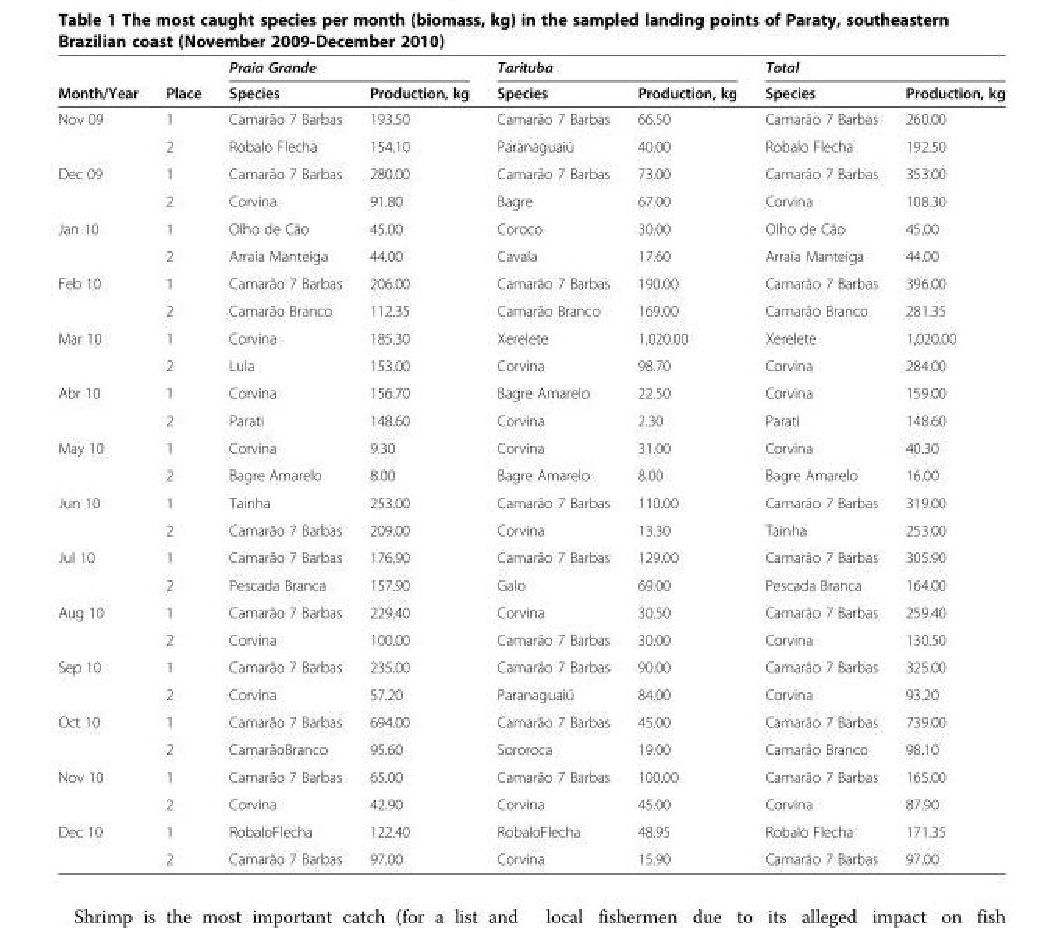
<table><thead><tr><td rowspan="2">Month/Year</td><td rowspan="2">Place</td><td colspan="2">Praia Grande</td><td colspan="2">Tarituba</td><td colspan="2">Total</td></tr><tr><td>Species</td><td>Production, kg</td><td>Species</td><td>Production, kg</td><td>Species</td><td>Production, kg</td></tr></thead><tbody><tr><td rowspan="2">Nov 09</td><td>1</td><td>Camarão 7 Barbas</td><td>193.50</td><td>Camarão 7 Barbas</td><td>66.50</td><td>Camarão 7 Barbas</td><td>260.00</td></tr><tr><td>2</td><td>Robalo Flecha</td><td>154.10</td><td>Paranaguaiú</td><td>40.00</td><td>Robalo Flecha</td><td>192.50</td></tr><tr><td rowspan="2">Dec 09</td><td>1</td><td>Camarão 7 Barbas</td><td>280.00</td><td>Camarão 7 Barbas</td><td>73.00</td><td>Camarão 7 Barbas</td><td>353.00</td></tr><tr><td>2</td><td>Corvina</td><td>91.80</td><td>Bagre</td><td>67.00</td><td>Corvina</td><td>108.30</td></tr><tr><td rowspan="2">Jan 10</td><td>1</td><td>Olho de Cão</td><td>45.00</td><td>Coroco</td><td>30.00</td><td>Olho de Cão</td><td>45.00</td></tr><tr><td>2</td><td>Arraia Manteiga</td><td>44.00</td><td>Cavala</td><td>17.60</td><td>Arraia Manteiga</td><td>44.00</td></tr><tr><td rowspan="2">Feb 10</td><td>1</td><td>Camarão 7 Barbas</td><td>206.00</td><td>Camarão 7 Barbas</td><td>190.00</td><td>Camarão 7 Barbas</td><td>396.00</td></tr><tr><td>2</td><td>Camarão Branco</td><td>112.35</td><td>Camarão Branco</td><td>169.00</td><td>Camarão Branco</td><td>281.35</td></tr><tr><td rowspan="2">Mar 10</td><td>1</td><td>Corvina</td><td>185.30</td><td>Xerelete</td><td>1,020.00</td><td>Xerelete</td><td>1,020.00</td></tr><tr><td>2</td><td>Lula</td><td>153.00</td><td>Corvina</td><td>98.70</td><td>Corvina</td><td>284.00</td></tr><tr><td rowspan="2">Abr 10</td><td>1</td><td>Corvina</td><td>156.70</td><td>Bagre Amarelo</td><td>22.50</td><td>Corvina</td><td>159.00</td></tr><tr><td>2</td><td>Parati</td><td>148.60</td><td>Corvina</td><td>2.30</td><td>Parati</td><td>148.60</td></tr><tr><td rowspan="2">May 10</td><td>1</td><td>Corvina</td><td>9.30</td><td>Corvina</td><td>31.00</td><td>Corvina</td><td>40.30</td></tr><tr><td>2</td><td>Bagre Amarelo</td><td>8.00</td><td>Bagre Amarelo</td><td>8.00</td><td>Bagre Amarelo</td><td>16.00</td></tr><tr><td rowspan="2">Jun 10</td><td>1</td><td>Tainha</td><td>253.00</td><td>Camarão 7 Barbas</td><td>110.00</td><td>Camarão 7 Barbas</td><td>319.00</td></tr><tr><td>2</td><td>Camarão 7 Barbas</td><td>209.00</td><td>Corvina</td><td>13.30</td><td>Tainha</td><td>253.00</td></tr><tr><td rowspan="2">Jul 10</td><td>1</td><td>Camarão 7 Barbas</td><td>176.90</td><td>Camarão 7 Barbas</td><td>129.00</td><td>Camarão 7 Barbas</td><td>305.90</td></tr><tr><td>2</td><td>Pescada Branca</td><td>157.90</td><td>Galo</td><td>69.00</td><td>Pescada Branca</td><td>164.00</td></tr><tr><td rowspan="2">Aug 10</td><td>1</td><td>Camarão 7 Barbas</td><td>229.40</td><td>Corvina</td><td>30.50</td><td>Camarão 7 Barbas</td><td>259.40</td></tr><tr><td>2</td><td>Corvina</td><td>100.00</td><td>Camarão 7 Barbas</td><td>30.00</td><td>Corvina</td><td>130.50</td></tr><tr><td rowspan="2">Sep 10</td><td>1</td><td>Camarão 7 Barbas</td><td>235.00</td><td>Camarão 7 Barbas</td><td>90.00</td><td>Camarão 7 Barbas</td><td>325.00</td></tr><tr><td>2</td><td>Corvina</td><td>57.20</td><td>Paranaguaiú</td><td>84.00</td><td>Corvina</td><td>93.20</td></tr><tr><td rowspan="2">Oct 10</td><td>1</td><td>Camarão 7 Barbas</td><td>694.00</td><td>Camarão 7 Barbas</td><td>45.00</td><td>Camarão 7 Barbas</td><td>739.00</td></tr><tr><td>2</td><td>CamarãoBranco</td><td>95.60</td><td>Sororoca</td><td>19.00</td><td>Camarão Branco</td><td>98.10</td></tr><tr><td rowspan="2">Nov 10</td><td>1</td><td>Camarão 7 Barbas</td><td>65.00</td><td>Camarão 7 Barbas</td><td>100.00</td><td>Camarão 7 Barbas</td><td>165.00</td></tr><tr><td>2</td><td>Corvina</td><td>42.90</td><td>Corvina</td><td>45.00</td><td>Corvina</td><td>87.90</td></tr><tr><td rowspan="2">Dec 10</td><td>1</td><td>RobaloFlecha</td><td>122.40</td><td>RobaloFlecha</td><td>48.95</td><td>Robalo Flecha</td><td>171.35</td></tr><tr><td>2</td><td>Camarão 7 Barbas</td><td>97.00</td><td>Corvina</td><td>15.90</td><td>Camarão 7 Barbas</td><td>97.00</td></tr></tbody></table>